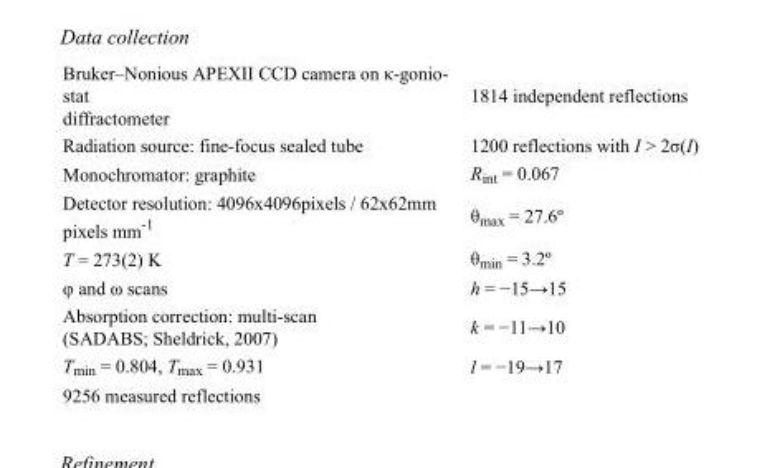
<table><tbody><tr><td>Bruker–Nonious APEXII CCD camera on κ-gonio- stat diffractometer</td><td>1814 independent reflections</td></tr><tr><td>Radiation source: fine-focus sealed tube</td><td>1200 reflections with I &gt; 2σ(I)</td></tr><tr><td>Monochromator: graphite</td><td>R<sub>int</sub> = 0.067</td></tr><tr><td>Detector resolution: 4096x4096pixels / 62x62mm pixels mm<sup>-1</sup></td><td>θ<sub>max</sub> = 27.6º</td></tr><tr><td>T = 273(2) K</td><td>θ<sub>min</sub> = 3.2º</td></tr><tr><td>φ and ω scans</td><td>h = −15→15</td></tr><tr><td>Absorption correction: multi-scan (SADABS; Sheldrick, 2007)</td><td>k = −11→10</td></tr><tr><td>T<sub>min</sub> = 0.804, T<sub>max</sub> = 0.931</td><td>l = −19→17</td></tr><tr><td>9256 measured reflections</td><td></td></tr></tbody></table>